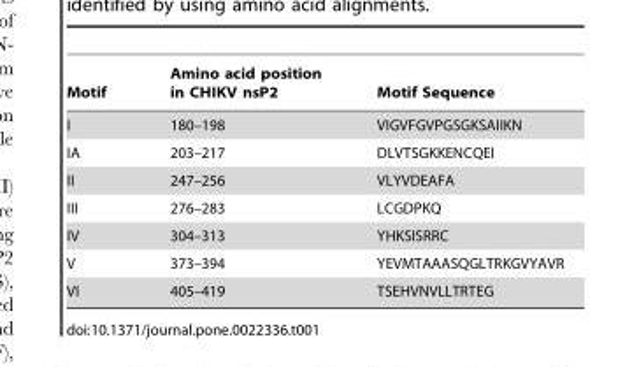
<table><thead><tr><td>Motif</td><td>Amino acid position in CHIKV nsP2</td><td>Motif Sequence</td></tr></thead><tbody><tr><td>I</td><td>180–198</td><td>VIGVFGVPGSGKSAIIKN</td></tr><tr><td>IA</td><td>203–217</td><td>DLVTSGKKENCQEI</td></tr><tr><td>II</td><td>247–256</td><td>VLYVDEAFA</td></tr><tr><td>III</td><td>276–283</td><td>LCGDPKQ</td></tr><tr><td>IV</td><td>304–313</td><td>YHKSISRRC</td></tr><tr><td>V</td><td>373–394</td><td>YEVMTAAASQGLTRKGVYAVR</td></tr><tr><td>VI</td><td>405–419</td><td>TSEHVNVLLTRTEG</td></tr></tbody></table>